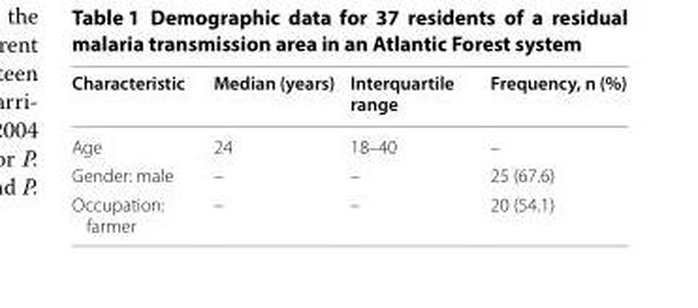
<table><thead><tr><td>Characteristic</td><td>Median (years)</td><td>Interquartile range</td><td>Frequency, n (%)</td></tr></thead><tbody><tr><td>Age</td><td>24</td><td>18–40</td><td>–</td></tr><tr><td>Gender: male</td><td>–</td><td>–</td><td>25 (67.6)</td></tr><tr><td>Occupation: farmer</td><td>–</td><td>–</td><td>20 (54.1)</td></tr></tbody></table>